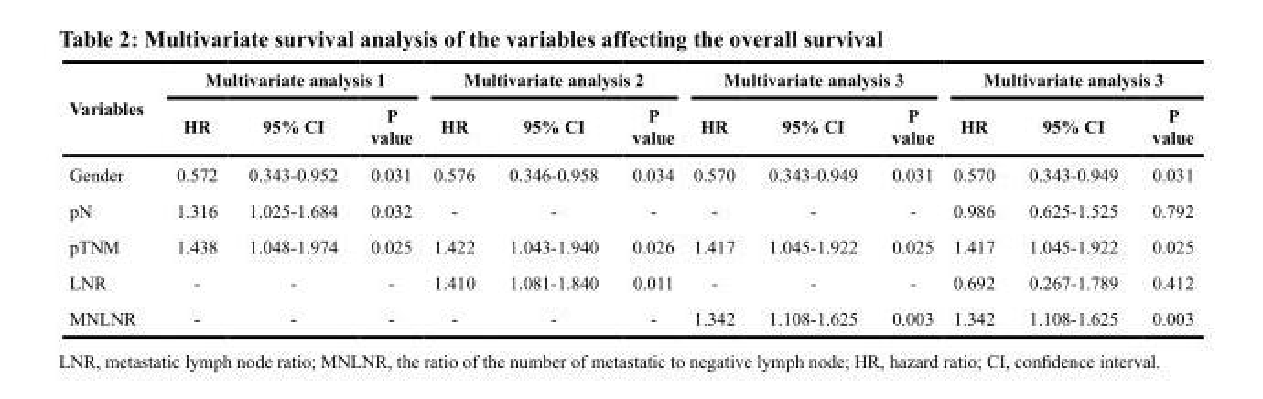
<table><thead><tr><td rowspan="2">Variables</td><td colspan="3">Multivariate analysis 1</td><td colspan="3">Multivariate analysis 2</td><td colspan="3">Multivariate analysis 3</td><td colspan="3">Multivariate analysis 3</td></tr><tr><td>HR</td><td>95% CI</td><td>P value</td><td>HR</td><td>95% CI</td><td>P value</td><td>HR</td><td>95% CI</td><td>P value</td><td>HR</td><td>95% CI</td><td>P value</td></tr></thead><tbody><tr><td>Gender</td><td>0.572</td><td>0.343-0.952</td><td>0.031</td><td>0.576</td><td>0.346-0.958</td><td>0.034</td><td>0.570</td><td>0.343-0.949</td><td>0.031</td><td>0.570</td><td>0.343-0.949</td><td>0.031</td></tr><tr><td>pN</td><td>1.316</td><td>1.025-1.684</td><td>0.032</td><td>-</td><td>-</td><td>-</td><td>-</td><td>-</td><td>-</td><td>0.986</td><td>0.625-1.525</td><td>0.792</td></tr><tr><td>pTNM</td><td>1.438</td><td>1.048-1.974</td><td>0.025</td><td>1.422</td><td>1.043-1.940</td><td>0.026</td><td>1.417</td><td>1.045-1.922</td><td>0.025</td><td>1.417</td><td>1.045-1.922</td><td>0.025</td></tr><tr><td>LNR</td><td>-</td><td>-</td><td>-</td><td>1.410</td><td>1.081-1.840</td><td>0.011</td><td>-</td><td>-</td><td>-</td><td>0.692</td><td>0.267-1.789</td><td>0.412</td></tr><tr><td>MNLNR</td><td>-</td><td>-</td><td>-</td><td>-</td><td>-</td><td>-</td><td>1.342</td><td>1.108-1.625</td><td>0.003</td><td>1.342</td><td>1.108-1.625</td><td>0.003</td></tr></tbody></table>